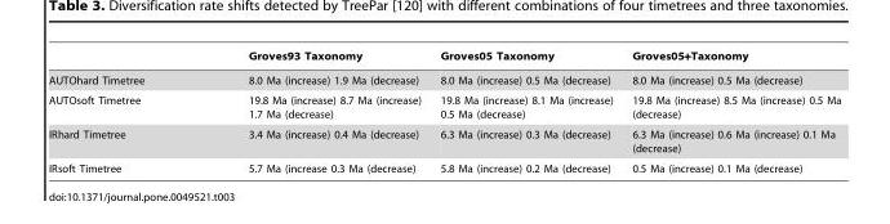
<table><thead><tr><td></td><td>Groves93 Taxonomy</td><td>Groves05 Taxonomy</td><td>Groves05+Taxonomy</td></tr></thead><tbody><tr><td>AUTOhard Timetree</td><td>8.0 Ma (increase) 1.9 Ma (decrease)</td><td>8.0 Ma (increase) 0.5 Ma (decrease)</td><td>8.0 Ma (increase) 0.5 Ma (decrease)</td></tr><tr><td>AUTOsoft Timetree</td><td>19.8 Ma (increase) 8.7 Ma (increase) 1.7 Ma (decrease)</td><td>19.8 Ma (increase) 8.1 Ma (increase) 0.5 Ma (decrease)</td><td>19.8 Ma (increase) 8.5 Ma (increase) 0.5 Ma (decrease)</td></tr><tr><td>IRhard Timetree</td><td>3.4 Ma (increase) 0.4 Ma (decrease)</td><td>6.3 Ma (increase) 0.3 Ma (decrease)</td><td>6.3 Ma (increase) 0.6 Ma (increase) 0.1 Ma (decrease)</td></tr><tr><td>IRsoft Timetree</td><td>5.7 Ma (increase 0.3 Ma (decrease)</td><td>5.8 Ma (increase) 0.2 Ma (decrease)</td><td>0.5 Ma (increase) 0.1 Ma (decrease)</td></tr></tbody></table>